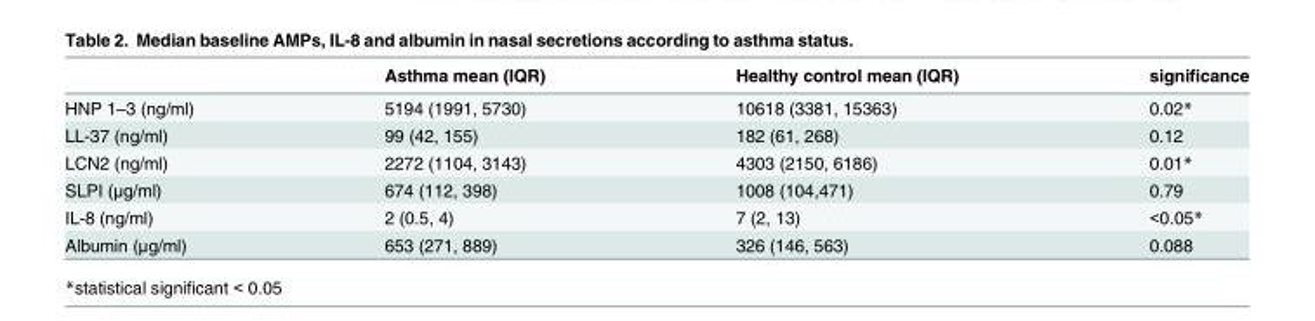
<table><thead><tr><td></td><td>Asthma mean (IQR)</td><td>Healthy control mean (IQR)</td><td>significance</td></tr></thead><tbody><tr><td>HNP 1–3 (ng/ml)</td><td>5194 (1991, 5730)</td><td>10618 (3381, 15363)</td><td>0.02*</td></tr><tr><td>LL-37 (ng/ml)</td><td>99 (42, 155)</td><td>182 (61, 268)</td><td>0.12</td></tr><tr><td>LCN2 (ng/ml)</td><td>2272 (1104, 3143)</td><td>4303 (2150, 6186)</td><td>0.01*</td></tr><tr><td>SLPI (μg/ml)</td><td>674 (112, 398)</td><td>1008 (104,471)</td><td>0.79</td></tr><tr><td>IL-8 (ng/ml)</td><td>2 (0.5, 4)</td><td>7 (2, 13)</td><td>&lt;0.05*</td></tr><tr><td>Albumin (μg/ml)</td><td>653 (271, 889)</td><td>326 (146, 563)</td><td>0.088</td></tr></tbody></table>